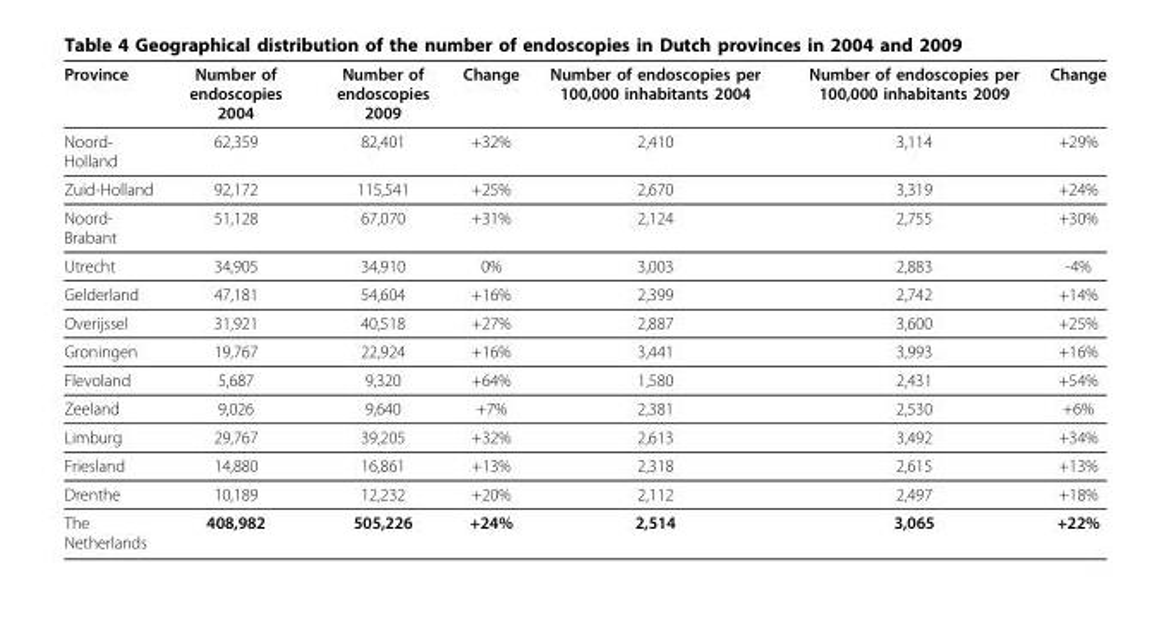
<table><thead><tr><td>Province</td><td>Number of endoscopies 2004</td><td>Number of endoscopies 2009</td><td>Change</td><td>Number of endoscopies per 100,000 inhabitants 2004</td><td>Number of endoscopies per 100,000 inhabitants 2009</td><td>Change</td></tr></thead><tbody><tr><td>Noord- Holland</td><td>62,359</td><td>82,401</td><td>+32%</td><td>2,410</td><td>3,114</td><td>+29%</td></tr><tr><td>Zuid-Holland</td><td>92,172</td><td>115,541</td><td>+25%</td><td>2,670</td><td>3,319</td><td>+24%</td></tr><tr><td>Noord- Brabant</td><td>51,128</td><td>67,070</td><td>+31%</td><td>2,124</td><td>2,755</td><td>+30%</td></tr><tr><td>Utrecht</td><td>34,905</td><td>34,910</td><td>0%</td><td>3,003</td><td>2,883</td><td>-4%</td></tr><tr><td>Gelderland</td><td>47,181</td><td>54,604</td><td>+16%</td><td>2,399</td><td>2,742</td><td>+14%</td></tr><tr><td>Overijssel</td><td>31,921</td><td>40,518</td><td>+27%</td><td>2,887</td><td>3,600</td><td>+25%</td></tr><tr><td>Groningen</td><td>19,767</td><td>22,924</td><td>+16%</td><td>3,441</td><td>3,993</td><td>+16%</td></tr><tr><td>Flevoland</td><td>5,687</td><td>9,320</td><td>+64%</td><td>1,580</td><td>2,431</td><td>+54%</td></tr><tr><td>Zeeland</td><td>9,026</td><td>9,640</td><td>+7%</td><td>2,381</td><td>2,530</td><td>+6%</td></tr><tr><td>Limburg</td><td>29,767</td><td>39,205</td><td>+32%</td><td>2,613</td><td>3,492</td><td>+34%</td></tr><tr><td>Friesland</td><td>14,880</td><td>16,861</td><td>+13%</td><td>2,318</td><td>2,615</td><td>+13%</td></tr><tr><td>Drenthe</td><td>10,189</td><td>12,232</td><td>+20%</td><td>2,112</td><td>2,497</td><td>+18%</td></tr><tr><td>The Netherlands</td><td>408,982</td><td>505,226</td><td>+24%</td><td>2,514</td><td>3,065</td><td>+22%</td></tr></tbody></table>